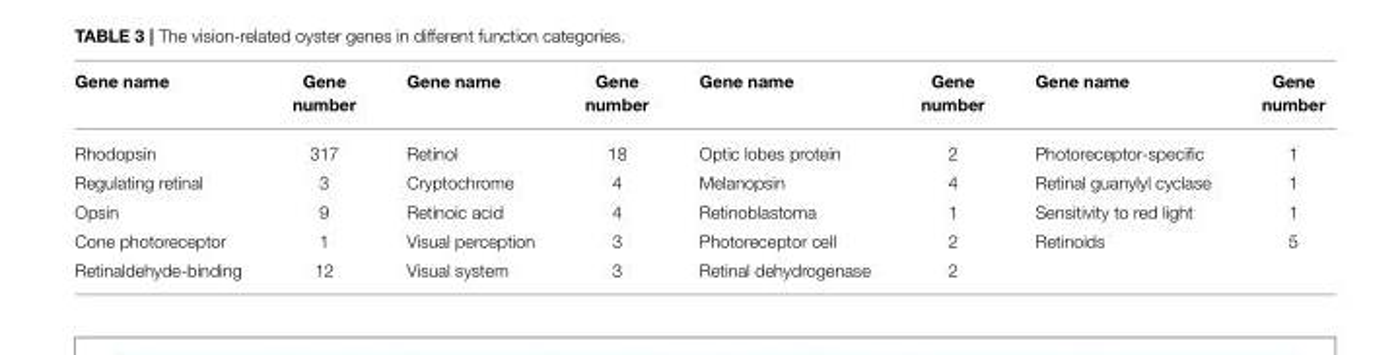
<table><thead><tr><td>Gene name</td><td>Gene number</td><td>Gene name</td><td>Gene number</td><td>Gene name</td><td>Gene number</td><td>Gene name</td><td>Gene number</td></tr></thead><tbody><tr><td>Rhodopsin</td><td>317</td><td>Retinol</td><td>18</td><td>Optic lobes protein</td><td>2</td><td>Photoreceptor-specific</td><td>1</td></tr><tr><td>Regulating retinal</td><td>3</td><td>Cryptochrome</td><td>4</td><td>Melanopsin</td><td>4</td><td>Retinal guanylyl cyclase</td><td>1</td></tr><tr><td>Opsin</td><td>9</td><td>Retinoic acid</td><td>4</td><td>Retinoblastoma</td><td>1</td><td>Sensitivity to red light</td><td>1</td></tr><tr><td>Cone photoreceptor</td><td>1</td><td>Visual perception</td><td>3</td><td>Photoreceptor cell</td><td>2</td><td>Retinoids</td><td>5</td></tr><tr><td>Retinaldehyde-binding</td><td>12</td><td>Visual system</td><td>3</td><td>Retinal dehydrogenase</td><td>2</td><td></td><td></td></tr></tbody></table>